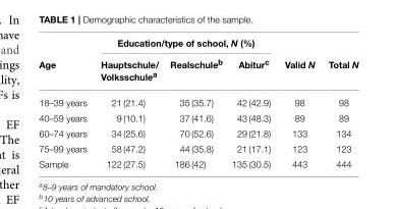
<table><thead><tr><td rowspan="2">Age</td><td colspan="3">Education/type of school, N (%)</td><td rowspan="2">Valid N</td><td rowspan="2">Total N</td></tr><tr><td>Hauptschule/ Volksschule<sup>a</sup></td><td>Realschule<sup>b</sup></td><td>Abitur<sup>c</sup></td></tr></thead><tbody><tr><td>18–39 years</td><td>21 (21.4)</td><td>35 (35.7)</td><td>42 (42.9)</td><td>98</td><td>98</td></tr><tr><td>40–59 years</td><td>9 (10.1)</td><td>37 (41.6)</td><td>43 (48.3)</td><td>89</td><td>89</td></tr><tr><td>60–74 years</td><td>34 (25.6)</td><td>70 (52.6)</td><td>29 (21.8)</td><td>133</td><td>134</td></tr><tr><td>75–99 years</td><td>58 (47.2)</td><td>44 (35.8)</td><td>21 (17.1)</td><td>123</td><td>123</td></tr><tr><td>Sample</td><td>122 (27.5)</td><td>186 (42)</td><td>135 (30.5)</td><td>443</td><td>444</td></tr></tbody></table>